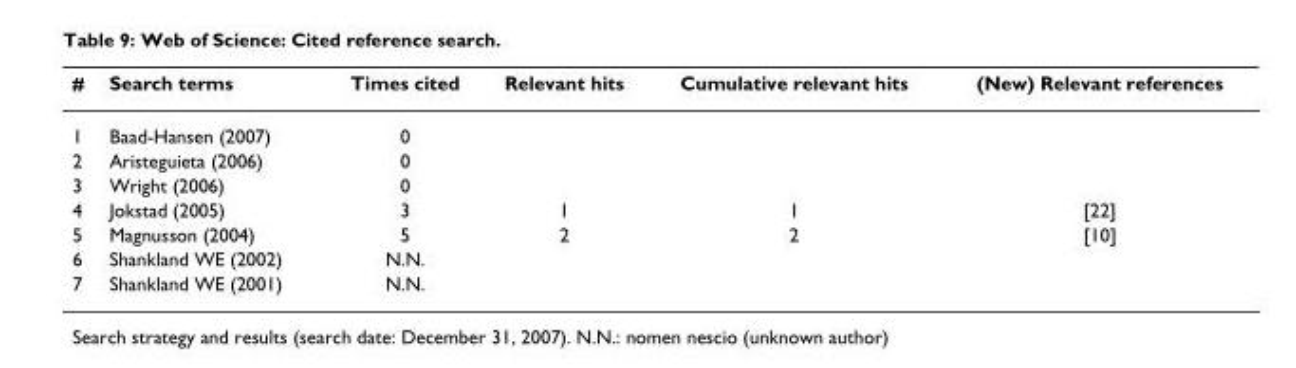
<table><thead><tr><td>#</td><td>Search terms</td><td>Times cited</td><td>Relevant hits</td><td>Cumulative relevant hits</td><td>(New) Relevant references</td></tr></thead><tbody><tr><td>1</td><td>Baad-Hansen (2007)</td><td>0</td><td></td><td></td><td></td></tr><tr><td>2</td><td>Aristeguieta (2006)</td><td>0</td><td></td><td></td><td></td></tr><tr><td>3</td><td>Wright (2006)</td><td>0</td><td></td><td></td><td></td></tr><tr><td>4</td><td>Jokstad (2005)</td><td>3</td><td>1</td><td>1</td><td>[22]</td></tr><tr><td>5</td><td>Magnusson (2004)</td><td>5</td><td>2</td><td>2</td><td>[10]</td></tr><tr><td>6</td><td>Shankland WE (2002)</td><td>N.N.</td><td></td><td></td><td></td></tr><tr><td>7</td><td>Shankland WE (2001)</td><td>N.N.</td><td></td><td></td><td></td></tr></tbody></table>